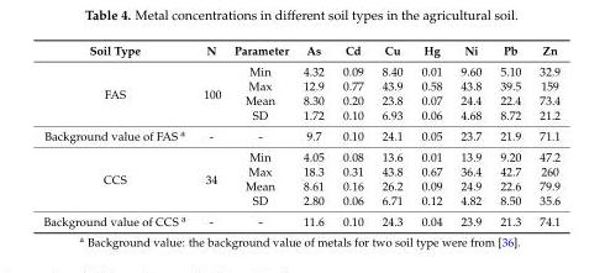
<table><thead><tr><td>Soil Type</td><td>N</td><td>Parameter</td><td>As</td><td>Cd</td><td>Cu</td><td>Hg</td><td>Ni</td><td>Pb</td><td>Zn</td></tr></thead><tbody><tr><td rowspan="4">FAS</td><td rowspan="4">100</td><td>Min</td><td>4.32</td><td>0.09</td><td>8.40</td><td>0.01</td><td>9.60</td><td>5.10</td><td>32.9</td></tr><tr><td>Max</td><td>12.9</td><td>0.77</td><td>43.9</td><td>0.58</td><td>43.8</td><td>39.5</td><td>159</td></tr><tr><td>Mean</td><td>8.30</td><td>0.20</td><td>23.8</td><td>0.07</td><td>24.4</td><td>22.4</td><td>73.4</td></tr><tr><td>SD</td><td>1.72</td><td>0.10</td><td>6.93</td><td>0.06</td><td>4.68</td><td>8.72</td><td>21.2</td></tr><tr><td>Background value of FAS <sup>a</sup></td><td>-</td><td>-</td><td>9.7</td><td>0.10</td><td>24.1</td><td>0.05</td><td>23.7</td><td>21.9</td><td>71.1</td></tr><tr><td rowspan="4">CCS</td><td rowspan="4">34</td><td>Min</td><td>4.05</td><td>0.08</td><td>13.6</td><td>0.01</td><td>13.9</td><td>9.20</td><td>47.2</td></tr><tr><td>Max</td><td>18.3</td><td>0.31</td><td>43.8</td><td>0.67</td><td>36.4</td><td>42.7</td><td>260</td></tr><tr><td>Mean</td><td>8.61</td><td>0.16</td><td>26.2</td><td>0.09</td><td>24.9</td><td>22.6</td><td>79.9</td></tr><tr><td>SD</td><td>2.80</td><td>0.06</td><td>6.71</td><td>0.12</td><td>4.82</td><td>8.50</td><td>35.6</td></tr><tr><td>Background value of CCS <sup>a</sup></td><td>-</td><td>-</td><td>11.6</td><td>0.10</td><td>24.3</td><td>0.04</td><td>23.9</td><td>21.3</td><td>74.1</td></tr></tbody></table>